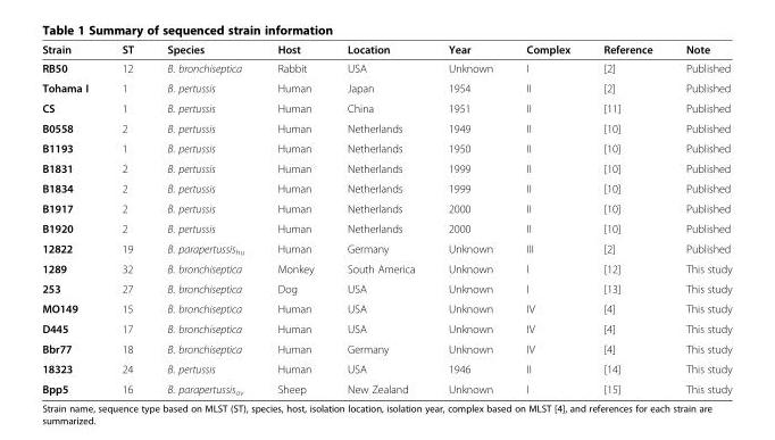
<table><thead><tr><td>Strain</td><td>ST</td><td>Species</td><td>Host</td><td>Location</td><td>Year</td><td>Complex</td><td>Reference</td><td>Note</td></tr></thead><tbody><tr><td>RB50</td><td>12</td><td>B. bronchiseptica</td><td>Rabbit</td><td>USA</td><td>Unknown</td><td>I</td><td>[2]</td><td>Published</td></tr><tr><td>Tohama I</td><td>1</td><td>B. pertussis</td><td>Human</td><td>Japan</td><td>1954</td><td>II</td><td>[2]</td><td>Published</td></tr><tr><td>CS</td><td>1</td><td>B. pertussis</td><td>Human</td><td>China</td><td>1951</td><td>II</td><td>[11]</td><td>Published</td></tr><tr><td>B0558</td><td>2</td><td>B. pertussis</td><td>Human</td><td>Netherlands</td><td>1949</td><td>II</td><td>[10]</td><td>Published</td></tr><tr><td>B1193</td><td>1</td><td>B. pertussis</td><td>Human</td><td>Netherlands</td><td>1950</td><td>II</td><td>[10]</td><td>Published</td></tr><tr><td>B1831</td><td>2</td><td>B. pertussis</td><td>Human</td><td>Netherlands</td><td>1999</td><td>II</td><td>[10]</td><td>Published</td></tr><tr><td>B1834</td><td>2</td><td>B. pertussis</td><td>Human</td><td>Netherlands</td><td>1999</td><td>II</td><td>[10]</td><td>Published</td></tr><tr><td>B1917</td><td>2</td><td>B. pertussis</td><td>Human</td><td>Netherlands</td><td>2000</td><td>II</td><td>[10]</td><td>Published</td></tr><tr><td>B1920</td><td>2</td><td>B. pertussis</td><td>Human</td><td>Netherlands</td><td>2000</td><td>II</td><td>[10]</td><td>Published</td></tr><tr><td>12822</td><td>19</td><td>B. parapertussis<sub>hu</sub></td><td>Human</td><td>Germany</td><td>Unknown</td><td>III</td><td>[2]</td><td>Published</td></tr><tr><td>1289</td><td>32</td><td>B. bronchiseptica</td><td>Monkey</td><td>South America</td><td>Unknown</td><td>I</td><td>[12]</td><td>This study</td></tr><tr><td>253</td><td>27</td><td>B. bronchiseptica</td><td>Dog</td><td>USA</td><td>Unknown</td><td>I</td><td>[13]</td><td>This study</td></tr><tr><td>MO149</td><td>15</td><td>B. bronchiseptica</td><td>Human</td><td>USA</td><td>Unknown</td><td>IV</td><td>[4]</td><td>This study</td></tr><tr><td>D445</td><td>17</td><td>B. bronchiseptica</td><td>Human</td><td>USA</td><td>Unknown</td><td>IV</td><td>[4]</td><td>This study</td></tr><tr><td>Bbr77</td><td>18</td><td>B. bronchiseptica</td><td>Human</td><td>Germany</td><td>Unknown</td><td>IV</td><td>[4]</td><td>This study</td></tr><tr><td>18323</td><td>24</td><td>B. pertussis</td><td>Human</td><td>USA</td><td>1946</td><td>II</td><td>[14]</td><td>This study</td></tr><tr><td>Bpp5</td><td>16</td><td>B. parapertussis<sub>ov</sub></td><td>Sheep</td><td>New Zealand</td><td>Unknown</td><td>I</td><td>[15]</td><td>This study</td></tr></tbody></table>